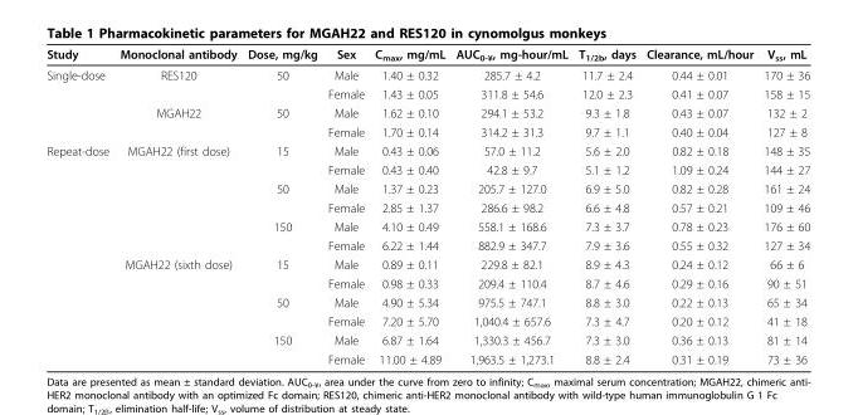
<table><thead><tr><td>Study</td><td>Monoclonal antibody</td><td>Dose, mg/kg</td><td>Sex</td><td>C<sub>max</sub>, mg/mL</td><td>AUC<sub>0-¥</sub>, mg-hour/mL</td><td>T<sub>1/2b</sub>, days</td><td>Clearance, mL/hour</td><td>V<sub>ss</sub>, mL</td></tr></thead><tbody><tr><td rowspan="4">Single-dose</td><td>RES120</td><td>50</td><td>Male</td><td>1.40 ± 0.32</td><td>285.7 ± 4.2</td><td>11.7 ± 2.4</td><td>0.44 ± 0.01</td><td>170 ± 36</td></tr><tr><td></td><td></td><td>Female</td><td>1.43 ± 0.05</td><td>311.8 ± 54.6</td><td>12.0 ± 2.3</td><td>0.41 ± 0.07</td><td>158 ± 15</td></tr><tr><td>MGAH22</td><td>50</td><td>Male</td><td>1.62 ± 0.10</td><td>294.1 ± 53.2</td><td>9.3 ± 1.8</td><td>0.43 ± 0.07</td><td>132 ± 2</td></tr><tr><td></td><td></td><td>Female</td><td>1.70 ± 0.14</td><td>314.2 ± 31.3</td><td>9.7 ± 1.1</td><td>0.40 ± 0.04</td><td>127 ± 8</td></tr><tr><td rowspan="12">Repeat-dose</td><td>MGAH22 (first dose)</td><td>15</td><td>Male</td><td>0.43 ± 0.06</td><td>57.0 ± 11.2</td><td>5.6 ± 2.0</td><td>0.82 ± 0.18</td><td>148 ± 35</td></tr><tr><td></td><td></td><td>Female</td><td>0.43 ± 0.40</td><td>42.8 ± 9.7</td><td>5.1 ± 1.2</td><td>1.09 ± 0.24</td><td>144 ± 27</td></tr><tr><td></td><td>50</td><td>Male</td><td>1.37 ± 0.23</td><td>205.7 ± 127.0</td><td>6.9 ± 5.0</td><td>0.82 ± 0.28</td><td>161 ± 24</td></tr><tr><td></td><td></td><td>Female</td><td>2.85 ± 1.37</td><td>286.6 ± 98.2</td><td>6.6 ± 4.8</td><td>0.57 ± 0.21</td><td>109 ± 46</td></tr><tr><td></td><td>150</td><td>Male</td><td>4.10 ± 0.49</td><td>558.1 ± 168.6</td><td>7.3 ± 3.7</td><td>0.78 ± 0.23</td><td>176 ± 60</td></tr><tr><td></td><td></td><td>Female</td><td>6.22 ± 1.44</td><td>882.9 ± 347.7</td><td>7.9 ± 3.6</td><td>0.55 ± 0.32</td><td>127 ± 34</td></tr><tr><td>MGAH22 (sixth dose)</td><td>15</td><td>Male</td><td>0.89 ± 0.11</td><td>229.8 ± 82.1</td><td>8.9 ± 4.3</td><td>0.24 ± 0.12</td><td>66 ± 6</td></tr><tr><td></td><td></td><td>Female</td><td>0.98 ± 0.33</td><td>209.4 ± 110.4</td><td>8.7 ± 4.6</td><td>0.29 ± 0.16</td><td>90 ± 51</td></tr><tr><td></td><td>50</td><td>Male</td><td>4.90 ± 5.34</td><td>975.5 ± 747.1</td><td>8.8 ± 3.0</td><td>0.22 ± 0.13</td><td>65 ± 34</td></tr><tr><td></td><td></td><td>Female</td><td>7.20 ± 5.70</td><td>1,040.4 ± 657.6</td><td>7.3 ± 4.7</td><td>0.20 ± 0.12</td><td>41 ± 18</td></tr><tr><td></td><td>150</td><td>Male</td><td>6.87 ± 1.64</td><td>1,330.3 ± 456.7</td><td>7.3 ± 3.0</td><td>0.36 ± 0.13</td><td>81 ± 14</td></tr><tr><td></td><td></td><td>Female</td><td>11.00 ± 4.89</td><td>1,963.5 ± 1,273.1</td><td>8.8 ± 2.4</td><td>0.31 ± 0.19</td><td>73 ± 36</td></tr></tbody></table>